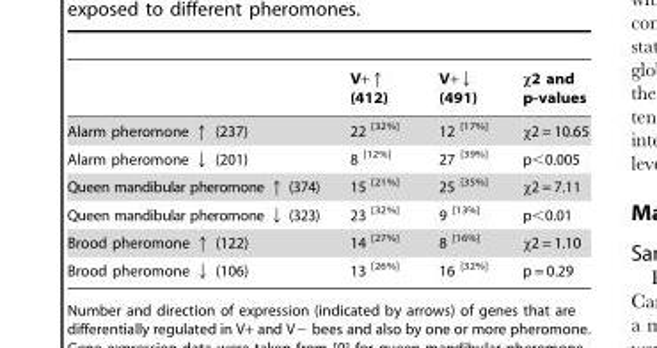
<table><thead><tr><td></td><td>V+↑ (412)</td><td>V+↓ (491)</td><td>χ2 and p-values</td></tr></thead><tbody><tr><td>Alarm pheromone ↑ (237)</td><td>22 <sup>[32%]</sup></td><td>12 <sup>[17%]</sup></td><td>χ2 = 10.65</td></tr><tr><td>Alarm pheromone ↓ (201)</td><td>8 <sup>[12%]</sup></td><td>27 <sup>[39%]</sup></td><td>p&lt;0.005</td></tr><tr><td>Queen mandibular pheromone ↑ (374)</td><td>15 <sup>[21%]</sup></td><td>25 <sup>[35%]</sup></td><td>χ2 = 7.11</td></tr><tr><td>Queen mandibular pheromone ↓ (323)</td><td>23 <sup>[32%]</sup></td><td>9 <sup>[13%]</sup></td><td>p&lt;0.01</td></tr><tr><td>Brood pheromone ↑ (122)</td><td>14 <sup>[27%]</sup></td><td>8 <sup>[16%]</sup></td><td>χ2 = 1.10</td></tr><tr><td>Brood pheromone ↓ (106)</td><td>13 <sup>[26%]</sup></td><td>16 <sup>[32%]</sup></td><td>p = 0.29</td></tr></tbody></table>